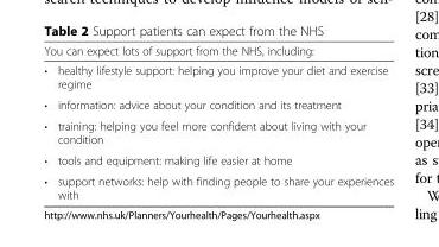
<table><thead><tr><td colspan="2">You can expect lots of support from the NHS, including:</td></tr><tr><td>•</td><td>healthy lifestyle support: helping you improve your diet and exercise regime</td></tr></thead><tbody><tr><td>•</td><td>information: advice about your condition and its treatment</td></tr><tr><td>•</td><td>training: helping you feel more confident about living with your condition</td></tr><tr><td>•</td><td>tools and equipment: making life easier at home</td></tr><tr><td>•</td><td>support networks: help with finding people to share your experiences with</td></tr></tbody></table>